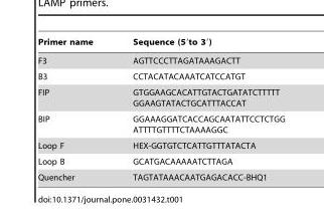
<table><thead><tr><td>Primer name</td><td>Sequence (5′to 3′)</td></tr></thead><tbody><tr><td>F3</td><td>AGTTCCCTTAGATAAAGACTT</td></tr><tr><td>B3</td><td>CCTACATACAAATCATCCATGT</td></tr><tr><td>FIP</td><td>GTGGAAGCACATTGTACTGATATCTTTTT GGAAGTATACTGCATTTACCAT</td></tr><tr><td>BIP</td><td>GGAAAGGATCACCAGCAATATTCCTCTGG ATTTTGTTTTCTAAAAGGC</td></tr><tr><td>Loop F</td><td>HEX-GGTGTCTCATTGTTTATACTA</td></tr><tr><td>Loop B</td><td>GCATGACAAAAATCTTAGA</td></tr><tr><td>Quencher</td><td>TAGTATAAACAATGAGACACC-BHQ1</td></tr></tbody></table>